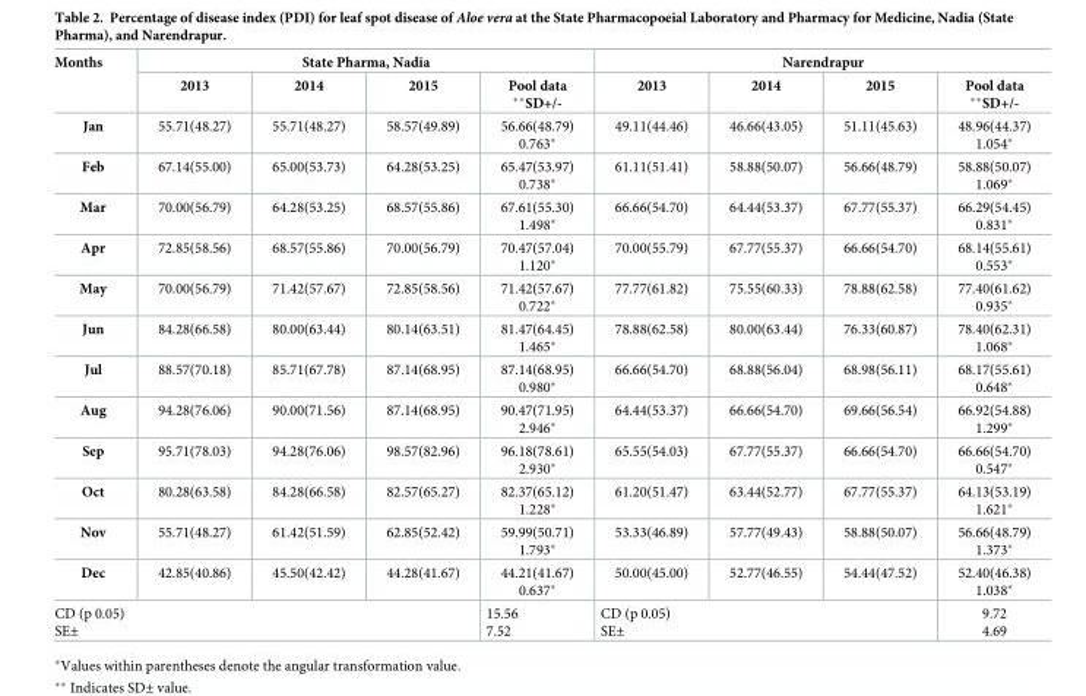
<table><thead><tr><td rowspan="2">Months</td><td colspan="4">State Pharma, Nadia</td><td colspan="4">Narendrapur</td></tr><tr><td>2013</td><td>2014</td><td>2015</td><td>Pool data **SD+/-</td><td>2013</td><td>2014</td><td>2015</td><td>Pool data **SD+/-</td></tr></thead><tbody><tr><td>Jan</td><td>55.71(48.27)</td><td>55.71(48.27)</td><td>58.57(49.89)</td><td>56.66(48.79) 0.763*</td><td>49.11(44.46)</td><td>46.66(43.05)</td><td>51.11(45.63)</td><td>48.96(44.37) 1.054*</td></tr><tr><td>Feb</td><td>67.14(55.00)</td><td>65.00(53.73)</td><td>64.28(53.25)</td><td>65.47(53.97) 0.738*</td><td>61.11(51.41)</td><td>58.88(50.07)</td><td>56.66(48.79)</td><td>58.88(50.07) 1.069*</td></tr><tr><td>Mar</td><td>70.00(56.79)</td><td>64.28(53.25)</td><td>68.57(55.86)</td><td>67.61(55.30) 1.498*</td><td>66.66(54.70)</td><td>64.44(53.37)</td><td>67.77(55.37)</td><td>66.29(54.45) 0.831*</td></tr><tr><td>Apr</td><td>72.85(58.56)</td><td>68.57(55.86)</td><td>70.00(56.79)</td><td>70.47(57.04) 1.120*</td><td>70.00(55.79)</td><td>67.77(55.37)</td><td>66.66(54.70)</td><td>68.14(55.61) 0.553*</td></tr><tr><td>May</td><td>70.00(56.79)</td><td>71.42(57.67)</td><td>72.85(58.56)</td><td>71.42(57.67) 0.722*</td><td>77.77(61.82)</td><td>75.55(60.33)</td><td>78.88(62.58)</td><td>77.40(61.62) 0.935*</td></tr><tr><td>Jun</td><td>84.28(66.58)</td><td>80.00(63.44)</td><td>80.14(63.51)</td><td>81.47(64.45) 1.465*</td><td>78.88(62.58)</td><td>80.00(63.44)</td><td>76.33(60.87)</td><td>78.40(62.31) 1.068*</td></tr><tr><td>Jul</td><td>88.57(70.18)</td><td>85.71(67.78)</td><td>87.14(68.95)</td><td>87.14(68.95) 0.980*</td><td>66.66(54.70)</td><td>68.88(56.04)</td><td>68.98(56.11)</td><td>68.17(55.61) 0.648*</td></tr><tr><td>Aug</td><td>94.28(76.06)</td><td>90.00(71.56)</td><td>87.14(68.95)</td><td>90.47(71.95) 2.946*</td><td>64.44(53.37)</td><td>66.66(54.70)</td><td>69.66(56.54)</td><td>66.92(54.88) 1.299*</td></tr><tr><td>Sep</td><td>95.71(78.03)</td><td>94.28(76.06)</td><td>98.57(82.96)</td><td>96.18(78.61) 2.930*</td><td>65.55(54.03)</td><td>67.77(55.37)</td><td>66.66(54.70)</td><td>66.66(54.70) 0.547*</td></tr><tr><td>Oct</td><td>80.28(63.58)</td><td>84.28(66.58)</td><td>82.57(65.27)</td><td>82.37(65.12) 1.228*</td><td>61.20(51.47)</td><td>63.44(52.77)</td><td>67.77(55.37)</td><td>64.13(53.19) 1.621*</td></tr><tr><td>Nov</td><td>55.71(48.27)</td><td>61.42(51.59)</td><td>62.85(52.42)</td><td>59.99(50.71) 1.793*</td><td>53.33(46.89)</td><td>57.77(49.43)</td><td>58.88(50.07)</td><td>56.66(48.79) 1.373*</td></tr><tr><td>Dec</td><td>42.85(40.86)</td><td>45.50(42.42)</td><td>44.28(41.67)</td><td>44.21(41.67) 0.637*</td><td>50.00(45.00)</td><td>52.77(46.55)</td><td>54.44(47.52)</td><td>52.40(46.38) 1.038*</td></tr><tr><td colspan="4">CD (p 0.05) SE±</td><td>15.56 7.52</td><td colspan="3">CD (p 0.05) SE±</td><td>9.72 4.69</td></tr></tbody></table>